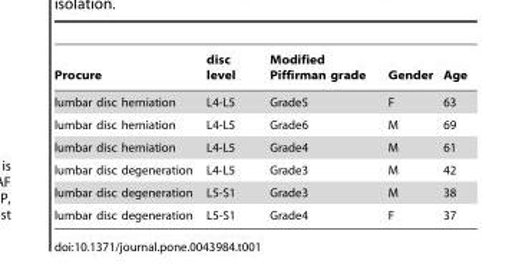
<table><thead><tr><td>Procure</td><td>disc level</td><td>Modified Piffirman grade</td><td>Gender</td><td>Age</td></tr></thead><tbody><tr><td>lumbar disc herniation</td><td>L4-L5</td><td>Grade5</td><td>F</td><td>63</td></tr><tr><td>lumbar disc herniation</td><td>L4-L5</td><td>Grade6</td><td>M</td><td>69</td></tr><tr><td>lumbar disc herniation</td><td>L4-L5</td><td>Grade4</td><td>M</td><td>61</td></tr><tr><td>lumbar disc degeneration</td><td>L4-L5</td><td>Grade3</td><td>M</td><td>42</td></tr><tr><td>lumbar disc degeneration</td><td>L5-S1</td><td>Grade3</td><td>M</td><td>38</td></tr><tr><td>lumbar disc degeneration</td><td>L5-S1</td><td>Grade4</td><td>F</td><td>37</td></tr></tbody></table>